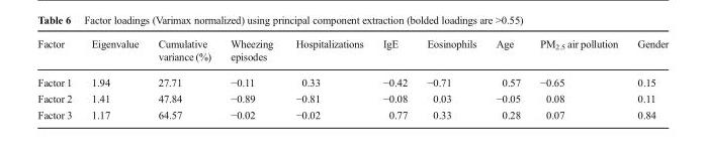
<table><thead><tr><td>Factor</td><td>Eigenvalue</td><td>Cumulative variance (%)</td><td>Wheezing episodes</td><td>Hospitalizations</td><td>IgE</td><td>Eosinophils</td><td>Age</td><td>PM<sub>2.5</sub> air pollution</td><td>Gender</td></tr></thead><tbody><tr><td>Factor 1</td><td>1.94</td><td>27.71</td><td>−0.11</td><td>0.33</td><td>−0.42</td><td>−0.71</td><td>0.57</td><td>−0.65</td><td>0.15</td></tr><tr><td>Factor 2</td><td>1.41</td><td>47.84</td><td>−0.89</td><td>−0.81</td><td>−0.08</td><td>0.03</td><td>−0.05</td><td>0.08</td><td>0.11</td></tr><tr><td>Factor 3</td><td>1.17</td><td>64.57</td><td>−0.02</td><td>−0.02</td><td>0.77</td><td>0.33</td><td>0.28</td><td>0.07</td><td>0.84</td></tr></tbody></table>